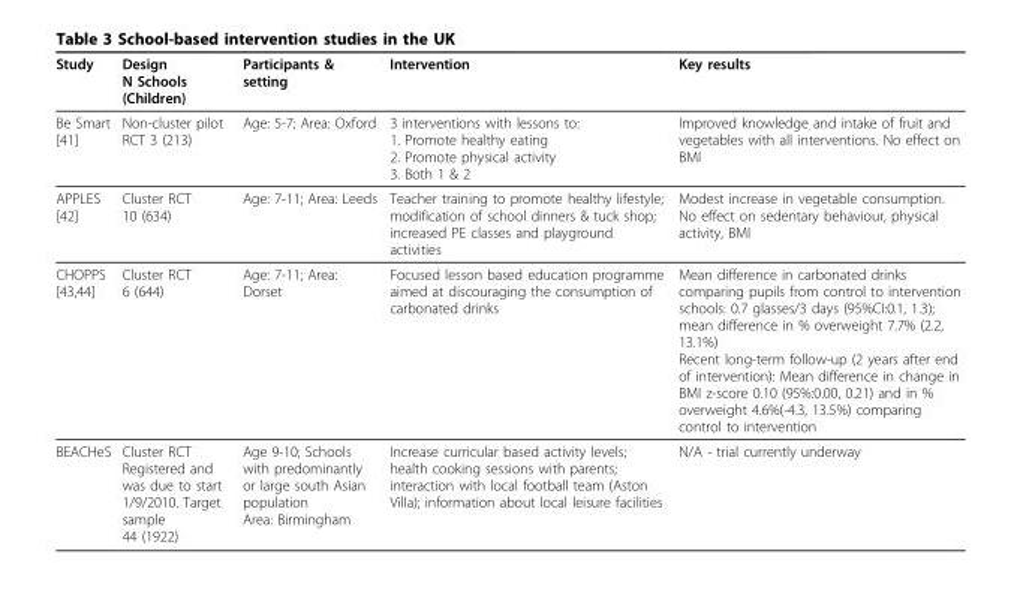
<table><thead><tr><td>Study</td><td>Design N Schools (Children)</td><td>Participants &amp; setting</td><td>Intervention</td><td>Key results</td></tr></thead><tbody><tr><td>Be Smart [41]</td><td>Non-cluster pilot RCT 3 (213)</td><td>Age: 5-7; Area: Oxford</td><td>3 interventions with lessons to: 1. Promote healthy eating 2. Promote physical activity 3. Both 1 &amp; 2</td><td>Improved knowledge and intake of fruit and vegetables with all interventions. No effect on BMI</td></tr><tr><td>APPLES [42]</td><td>Cluster RCT 10 (634)</td><td>Age: 7-11; Area: Leeds</td><td>Teacher training to promote healthy lifestyle; modification of school dinners &amp; tuck shop; increased PE classes and playground activities</td><td>Modest increase in vegetable consumption. No effect on sedentary behaviour, physical activity, BMI</td></tr><tr><td>CHOPPS [43,44]</td><td>Cluster RCT 6 (644)</td><td>Age: 7-11; Area: Dorset</td><td>Focused lesson based education programme aimed at discouraging the consumption of carbonated drinks</td><td>Mean difference in carbonated drinks comparing pupils from control to intervention schools: 0.7 glasses/3 days (95%CI:0.1, 1.3); mean difference in % overweight 7.7% (2.2, 13.1%) Recent long-term follow-up (2 years after end of intervention): Mean difference in change in BMI z-score 0.10 (95%:0.00, 0.21) and in % overweight 4.6%(-4.3, 13.5%) comparing control to intervention</td></tr><tr><td>BEACHeS</td><td>Cluster RCT Registered and was due to start 1/9/2010. Target sample 44 (1922)</td><td>Age 9-10; Schools with predominantly or large south Asian population Area: Birmingham</td><td>Increase curricular based activity levels; health cooking sessions with parents; interaction with local football team (Aston Villa); information about local leisure facilities</td><td>N/A - trial currently underway</td></tr></tbody></table>